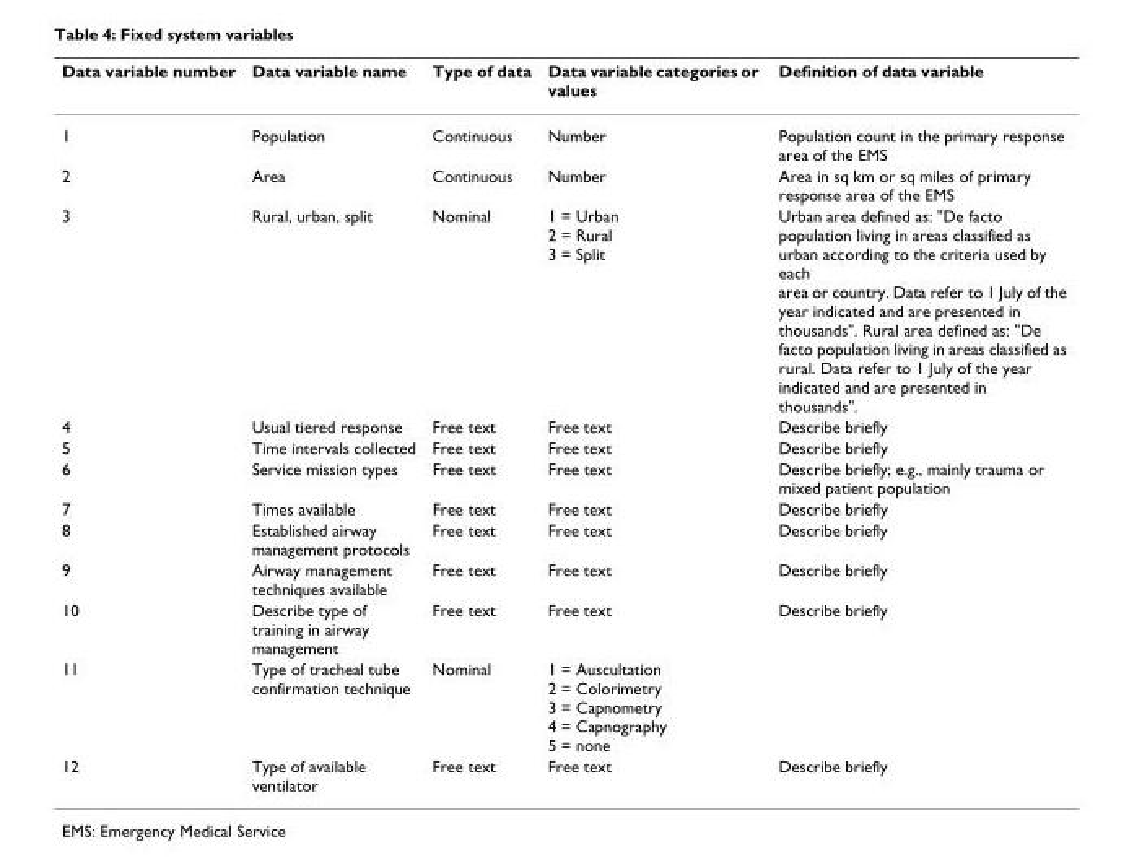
<table><thead><tr><td>Data variable number</td><td>Data variable name</td><td>Type of data</td><td>Data variable categories or values</td><td>Definition of data variable</td></tr></thead><tbody><tr><td>1</td><td>Population</td><td>Continuous</td><td>Number</td><td>Population count in the primary response area of the EMS</td></tr><tr><td>2</td><td>Area</td><td>Continuous</td><td>Number</td><td>Area in sq km or sq miles of primary response area of the EMS</td></tr><tr><td>3</td><td>Rural, urban, split</td><td>Nominal</td><td>1 = Urban 2 = Rural 3 = Split</td><td>Urban area defined as: &quot;De facto population living in areas classified as urban according to the criteria used by each area or country. Data refer to 1 July of the year indicated and are presented in thousands&quot;. Rural area defined as: &quot;De facto population living in areas classified as rural. Data refer to 1 July of the year indicated and are presented in thousands&quot;.</td></tr><tr><td>4</td><td>Usual tiered response</td><td>Free text</td><td>Free text</td><td>Describe briefly</td></tr><tr><td>5</td><td>Time intervals collected</td><td>Free text</td><td>Free text</td><td>Describe briefly</td></tr><tr><td>6</td><td>Service mission types</td><td>Free text</td><td>Free text</td><td>Describe briefly; e.g., mainly trauma or mixed patient population</td></tr><tr><td>7</td><td>Times available</td><td>Free text</td><td>Free text</td><td>Describe briefly</td></tr><tr><td>8</td><td>Established airway management protocols</td><td>Free text</td><td>Free text</td><td>Describe briefly</td></tr><tr><td>9</td><td>Airway management techniques available</td><td>Free text</td><td>Free text</td><td>Describe briefly</td></tr><tr><td>10</td><td>Describe type of training in airway management</td><td>Free text</td><td>Free text</td><td>Describe briefly</td></tr><tr><td>11</td><td>Type of tracheal tube confirmation technique</td><td>Nominal</td><td>1 = Auscultation 2 = Colorimetry 3 = Capnometry 4 = Capnography 5 = none</td><td></td></tr><tr><td>12</td><td>Type of available ventilator</td><td>Free text</td><td>Free text</td><td>Describe briefly</td></tr></tbody></table>